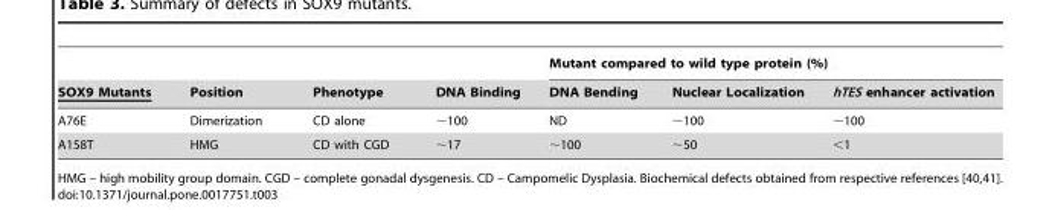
<table><thead><tr><td rowspan="2">SOX9 Mutants</td><td rowspan="2">Position</td><td rowspan="2">Phenotype</td><td rowspan="2">DNA Binding</td><td colspan="3">Mutant compared to wild type protein (%)</td></tr><tr><td>DNA Bending</td><td>Nuclear Localization</td><td>hTES enhancer activation</td></tr></thead><tbody><tr><td>A76E</td><td>Dimerization</td><td>CD alone</td><td>∼100</td><td>ND</td><td>∼100</td><td>∼100</td></tr><tr><td>A158T</td><td>HMG</td><td>CD with CGD</td><td>∼17</td><td>∼100</td><td>∼50</td><td>&lt;1</td></tr></tbody></table>